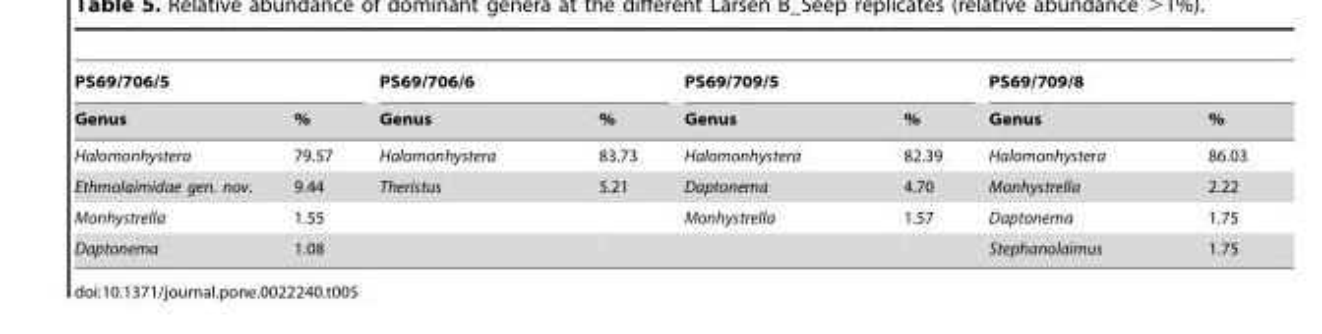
<table><thead><tr><td colspan="2">PS69/706/5</td><td colspan="2">PS69/706/6</td><td colspan="2">PS69/709/5</td><td colspan="2">PS69/709/8</td></tr><tr><td>Genus</td><td>%</td><td>Genus</td><td>%</td><td>Genus</td><td>%</td><td>Genus</td><td>%</td></tr></thead><tbody><tr><td>Halomonhystera</td><td>79.57</td><td>Halomonhystera</td><td>83.73</td><td>Halomonhystera</td><td>82.39</td><td>Halomonhystera</td><td>86.03</td></tr><tr><td>Ethmolaimidae gen. nov.</td><td>9.44</td><td>Theristus</td><td>5.21</td><td>Daptonema</td><td>4.70</td><td>Monhystrella</td><td>2.22</td></tr><tr><td>Monhystrella</td><td>1.55</td><td></td><td></td><td>Monhystrella</td><td>1.57</td><td>Daptonema</td><td>1.75</td></tr><tr><td>Daptonema</td><td>1.08</td><td></td><td></td><td></td><td></td><td>Stephanolaimus</td><td>1.75</td></tr></tbody></table>